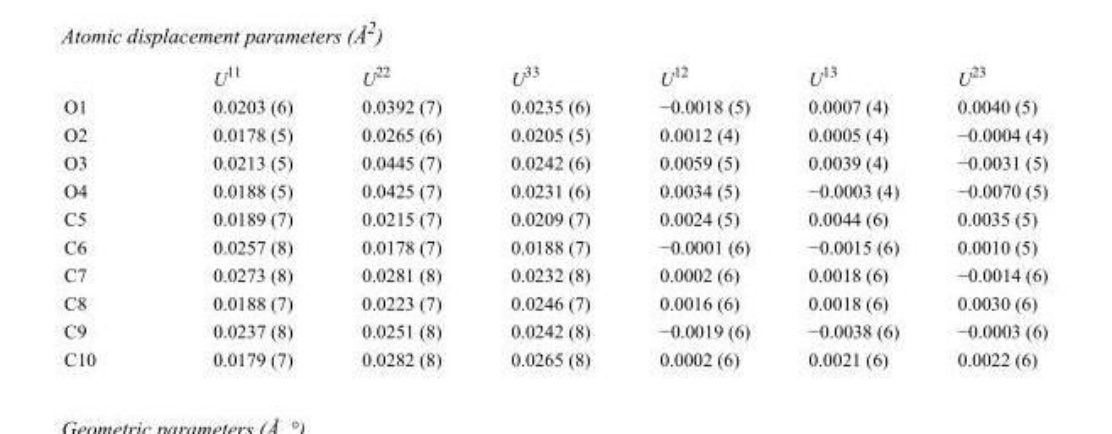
<table><thead><tr><td></td><td>U<sup>11</sup></td><td>U<sup>22</sup></td><td>U<sup>33</sup></td><td>U<sup>12</sup></td><td>U<sup>13</sup></td><td>U<sup>23</sup></td></tr></thead><tbody><tr><td>O1</td><td>0.0203 (6)</td><td>0.0392 (7)</td><td>0.0235 (6)</td><td>−0.0018 (5)</td><td>0.0007 (4)</td><td>0.0040 (5)</td></tr><tr><td>O2</td><td>0.0178 (5)</td><td>0.0265 (6)</td><td>0.0205 (5)</td><td>0.0012 (4)</td><td>0.0005 (4)</td><td>−0.0004 (4)</td></tr><tr><td>O3</td><td>0.0213 (5)</td><td>0.0445 (7)</td><td>0.0242 (6)</td><td>0.0059 (5)</td><td>0.0039 (4)</td><td>−0.0031 (5)</td></tr><tr><td>O4</td><td>0.0188 (5)</td><td>0.0425 (7)</td><td>0.0231 (6)</td><td>0.0034 (5)</td><td>−0.0003 (4)</td><td>−0.0070 (5)</td></tr><tr><td>C5</td><td>0.0189 (7)</td><td>0.0215 (7)</td><td>0.0209 (7)</td><td>0.0024 (5)</td><td>0.0044 (6)</td><td>0.0035 (5)</td></tr><tr><td>C6</td><td>0.0257 (8)</td><td>0.0178 (7)</td><td>0.0188 (7)</td><td>−0.0001 (6)</td><td>−0.0015 (6)</td><td>0.0010 (5)</td></tr><tr><td>C7</td><td>0.0273 (8)</td><td>0.0281 (8)</td><td>0.0232 (8)</td><td>0.0002 (6)</td><td>0.0018 (6)</td><td>−0.0014 (6)</td></tr><tr><td>C8</td><td>0.0188 (7)</td><td>0.0223 (7)</td><td>0.0246 (7)</td><td>0.0016 (6)</td><td>0.0018 (6)</td><td>0.0030 (6)</td></tr><tr><td>C9</td><td>0.0237 (8)</td><td>0.0251 (8)</td><td>0.0242 (8)</td><td>−0.0019 (6)</td><td>−0.0038 (6)</td><td>−0.0003 (6)</td></tr><tr><td>C10</td><td>0.0179 (7)</td><td>0.0282 (8)</td><td>0.0265 (8)</td><td>0.0002 (6)</td><td>0.0021 (6)</td><td>0.0022 (6)</td></tr></tbody></table>